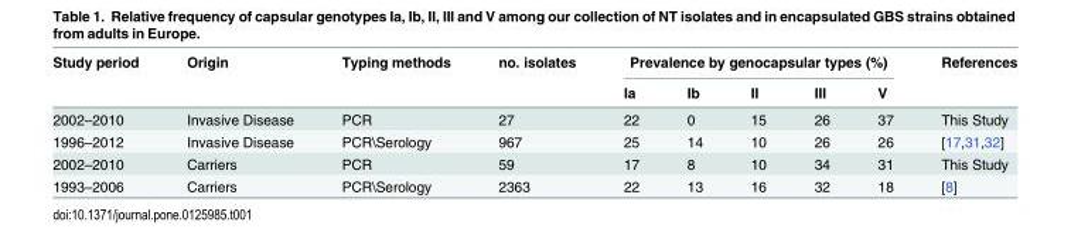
<table><thead><tr><td rowspan="2">Study period</td><td rowspan="2">Origin</td><td rowspan="2">Typing methods</td><td rowspan="2">no. isolates</td><td colspan="5">Prevalence by genocapsular types (%)</td><td rowspan="2">References</td></tr><tr><td>Ia</td><td>Ib</td><td>II</td><td>III</td><td>V</td></tr></thead><tbody><tr><td>2002–2010</td><td>Invasive Disease</td><td>PCR</td><td>27</td><td>22</td><td>0</td><td>15</td><td>26</td><td>37</td><td>This Study</td></tr><tr><td>1996–2012</td><td>Invasive Disease</td><td>PCR\Serology</td><td>967</td><td>25</td><td>14</td><td>10</td><td>26</td><td>26</td><td>[17,31,32]</td></tr><tr><td>2002–2010</td><td>Carriers</td><td>PCR</td><td>59</td><td>17</td><td>8</td><td>10</td><td>34</td><td>31</td><td>This Study</td></tr><tr><td>1993–2006</td><td>Carriers</td><td>PCR\Serology</td><td>2363</td><td>22</td><td>13</td><td>16</td><td>32</td><td>18</td><td>[8]</td></tr></tbody></table>